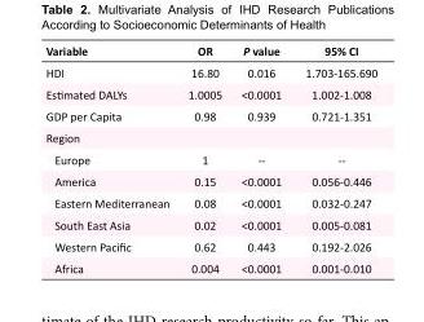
<table><tbody><tr><td>Variable</td><td>OR</td><td>P value</td><td>95% CI</td></tr><tr><td>HDI</td><td>16.80</td><td>0.016</td><td>1.703-165.690</td></tr><tr><td>Estimated DALYs</td><td>1.0005</td><td>&lt;0.0001</td><td>1.002-1.008</td></tr><tr><td>GDP per Capita</td><td>0.98</td><td>0.939</td><td>0.721-1.351</td></tr><tr><td colspan="4">Region</td></tr><tr><td>Europe</td><td>1</td><td>--</td><td>--</td></tr><tr><td>America</td><td>0.15</td><td>&lt;0.0001</td><td>0.056-0.446</td></tr><tr><td>Eastern Mediterranean</td><td>0.08</td><td>&lt;0.0001</td><td>0.032-0.247</td></tr><tr><td>South East Asia</td><td>0.02</td><td>&lt;0.0001</td><td>0.005-0.081</td></tr><tr><td>Western Pacific</td><td>0.62</td><td>0.443</td><td>0.192-2.026</td></tr><tr><td>Africa</td><td>0.004</td><td>&lt;0.0001</td><td>0.001-0.010</td></tr></tbody></table>